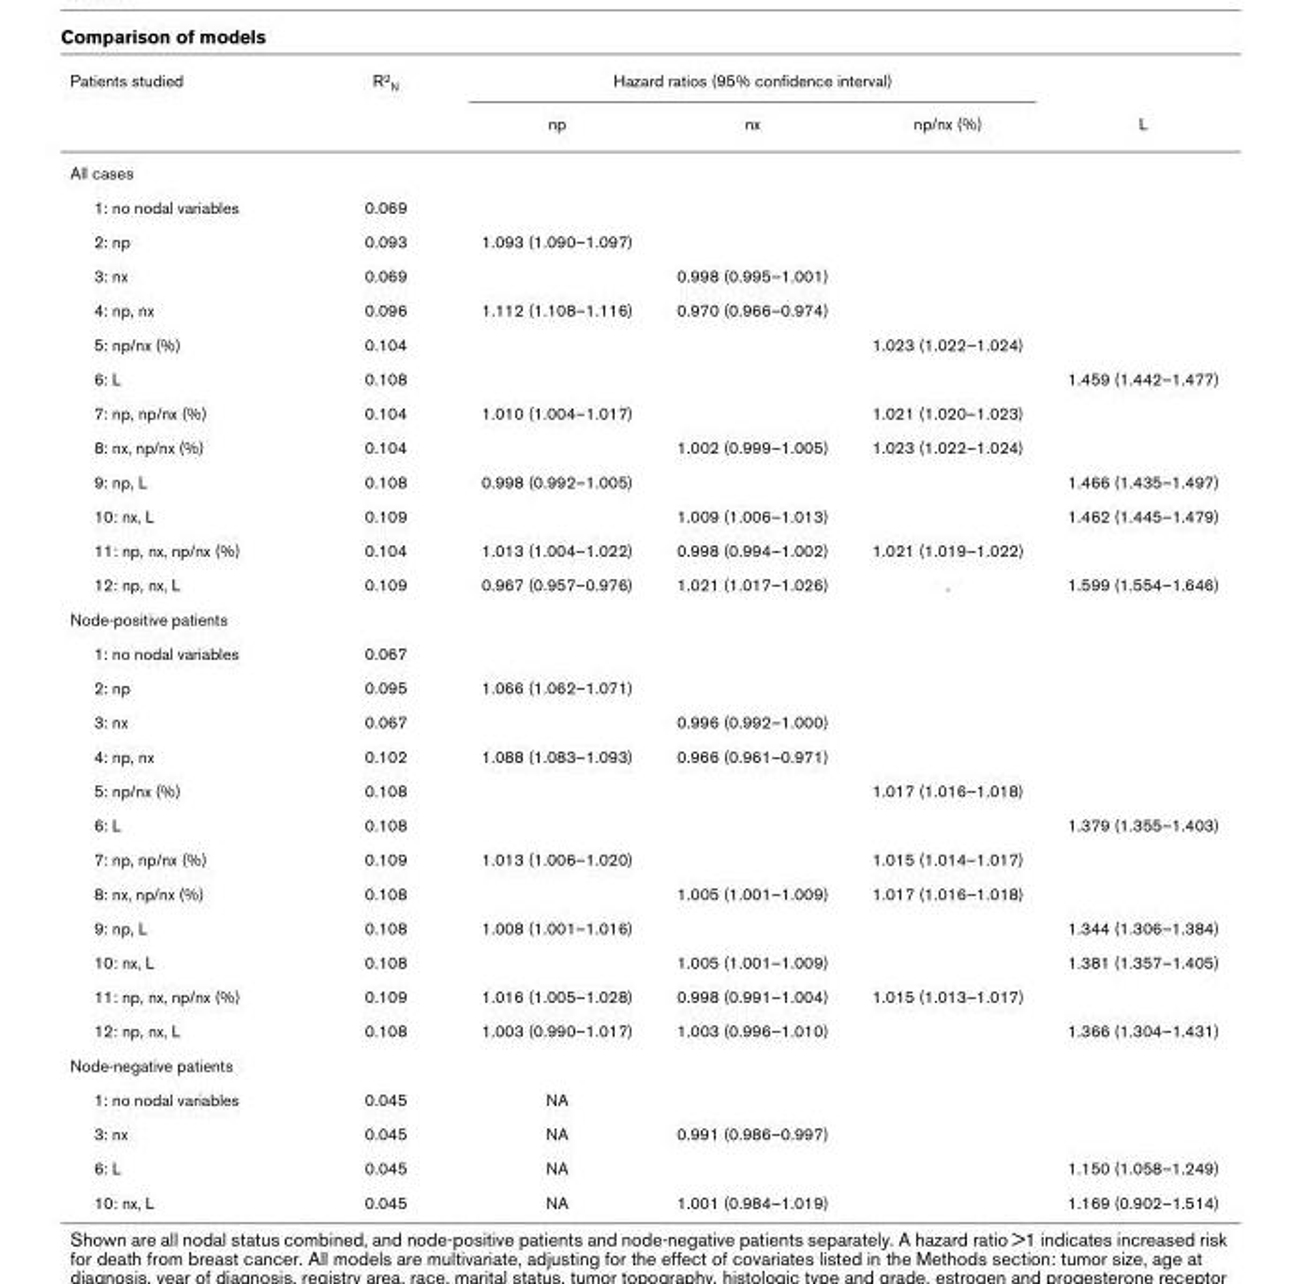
<table><thead><tr><td rowspan="2">Patients studied</td><td rowspan="2">R2N</td><td colspan="3">Hazard ratios (95% confidence interval)</td><td rowspan="2">L</td></tr><tr><td>np</td><td>nx</td><td>np/nx (%)</td></tr></thead><tbody><tr><td colspan="6">All cases</td></tr><tr><td>1: no nodal variables</td><td>0.069</td><td></td><td></td><td></td><td></td></tr><tr><td>2: np</td><td>0.093</td><td>1.093 (1.090–1.097)</td><td></td><td></td><td></td></tr><tr><td>3: nx</td><td>0.069</td><td></td><td>0.998 (0.995–1.001)</td><td></td><td></td></tr><tr><td>4: np, nx</td><td>0.096</td><td>1.112 (1.108–1.116)</td><td>0.970 (0.966–0.974)</td><td></td><td></td></tr><tr><td>5: np/nx (%)</td><td>0.104</td><td></td><td></td><td>1.023 (1.022–1.024)</td><td></td></tr><tr><td>6: L</td><td>0.108</td><td></td><td></td><td></td><td>1.459 (1.442–1.477)</td></tr><tr><td>7: np, np/nx (%)</td><td>0.104</td><td>1.010 (1.004–1.017)</td><td></td><td>1.021 (1.020–1.023)</td><td></td></tr><tr><td>8: nx, np/nx (%)</td><td>0.104</td><td></td><td>1.002 (0.999–1.005)</td><td>1.023 (1.022–1.024)</td><td></td></tr><tr><td>9: np, L</td><td>0.108</td><td>0.998 (0.992–1.005)</td><td></td><td></td><td>1.466 (1.435–1.497)</td></tr><tr><td>10: nx, L</td><td>0.109</td><td></td><td>1.009 (1.006–1.013)</td><td></td><td>1.462 (1.445–1.479)</td></tr><tr><td>11: np, nx, np/nx (%)</td><td>0.104</td><td>1.013 (1.004–1.022)</td><td>0.998 (0.994–1.002)</td><td>1.021 (1.019–1.022)</td><td></td></tr><tr><td>12: np, nx, L</td><td>0.109</td><td>0.967 (0.957–0.976)</td><td>1.021 (1.017–1.026)</td><td>.</td><td>1.599 (1.554–1.646)</td></tr><tr><td colspan="6">Node-positive patients</td></tr><tr><td>1: no nodal variables</td><td>0.067</td><td></td><td></td><td></td><td></td></tr><tr><td>2: np</td><td>0.095</td><td>1.066 (1.062–1.071)</td><td></td><td></td><td></td></tr><tr><td>3: nx</td><td>0.067</td><td></td><td>0.996 (0.992–1.000)</td><td></td><td></td></tr><tr><td>4: np, nx</td><td>0.102</td><td>1.088 (1.083–1.093)</td><td>0.966 (0.961–0.971)</td><td></td><td></td></tr><tr><td>5: np/nx (%)</td><td>0.108</td><td></td><td></td><td>1.017 (1.016–1.018)</td><td></td></tr><tr><td>6: L</td><td>0.108</td><td></td><td></td><td></td><td>1.379 (1.355–1.403)</td></tr><tr><td>7: np, np/nx (%)</td><td>0.109</td><td>1.013 (1.006–1.020)</td><td></td><td>1.015 (1.014–1.017)</td><td></td></tr><tr><td>8: nx, np/nx (%)</td><td>0.108</td><td></td><td>1.005 (1.001–1.009)</td><td>1.017 (1.016–1.018)</td><td></td></tr><tr><td>9: np, L</td><td>0.108</td><td>1.008 (1.001–1.016)</td><td></td><td></td><td>1.344 (1.306–1.384)</td></tr><tr><td>10: nx, L</td><td>0.108</td><td></td><td>1.005 (1.001–1.009)</td><td></td><td>1.381 (1.357–1.405)</td></tr><tr><td>11: np, nx, np/nx (%)</td><td>0.109</td><td>1.016 (1.005–1.028)</td><td>0.998 (0.991–1.004)</td><td>1.015 (1.013–1.017)</td><td></td></tr><tr><td>12: np, nx, L</td><td>0.108</td><td>1.003 (0.990–1.017)</td><td>1.003 (0.996–1.010)</td><td></td><td>1.366 (1.304–1.431)</td></tr><tr><td colspan="6">Node-negative patients</td></tr><tr><td>1: no nodal variables</td><td>0.045</td><td>NA</td><td></td><td></td><td></td></tr><tr><td>3: nx</td><td>0.045</td><td>NA</td><td>0.991 (0.986–0.997)</td><td></td><td></td></tr><tr><td>6: L</td><td>0.045</td><td>NA</td><td></td><td></td><td>1.150 (1.058–1.249)</td></tr><tr><td>10: nx, L</td><td>0.045</td><td>NA</td><td>1.001 (0.984–1.019)</td><td></td><td>1.169 (0.902–1.514)</td></tr></tbody></table>